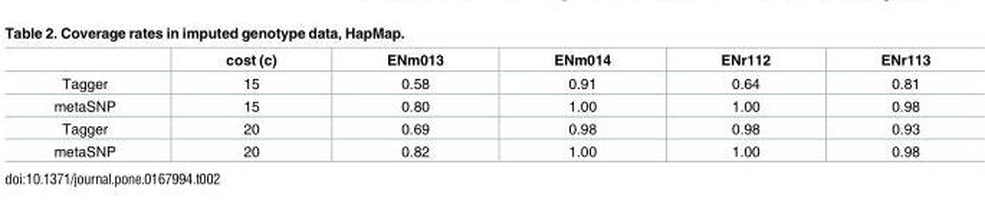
<table><thead><tr><td></td><td>cost (c)</td><td>ENm013</td><td>ENm014</td><td>ENr112</td><td>ENr113</td></tr></thead><tbody><tr><td>Tagger</td><td>15</td><td>0.58</td><td>0.91</td><td>0.64</td><td>0.81</td></tr><tr><td>metaSNP</td><td>15</td><td>0.80</td><td>1.00</td><td>1.00</td><td>0.98</td></tr><tr><td>Tagger</td><td>20</td><td>0.69</td><td>0.98</td><td>0.98</td><td>0.93</td></tr><tr><td>metaSNP</td><td>20</td><td>0.82</td><td>1.00</td><td>1.00</td><td>0.98</td></tr></tbody></table>